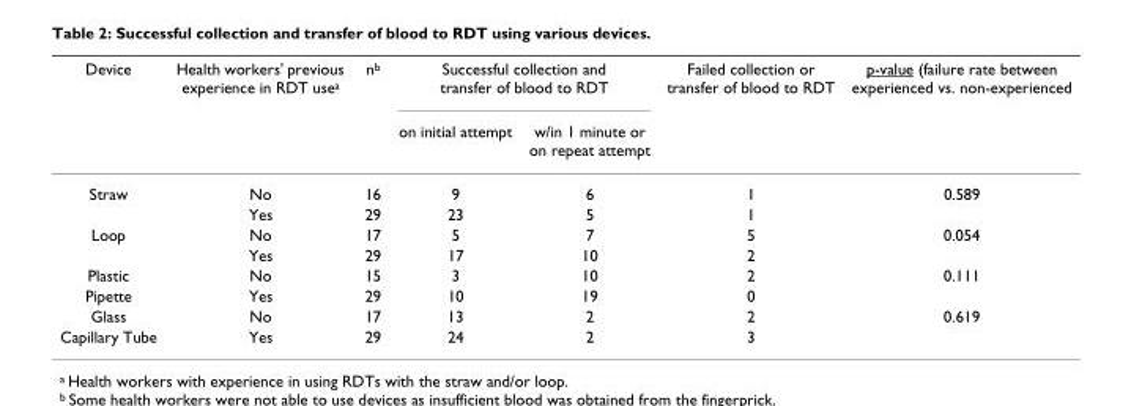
<table><thead><tr><td rowspan="2">Device</td><td rowspan="2">Health workers&#x27; previous experience in RDT use<sup>a</sup></td><td rowspan="2">n<sup>b</sup></td><td colspan="2">Successful collection and transfer of blood to RDT</td><td rowspan="2">Failed collection or transfer of blood to RDT</td><td rowspan="2">p-value (failure rate between experienced vs. non-experienced</td></tr><tr><td>on initial attempt</td><td>w/in 1 minute or on repeat attempt</td></tr></thead><tbody><tr><td rowspan="2">Straw</td><td>No</td><td>16</td><td>9</td><td>6</td><td>1</td><td>0.589</td></tr><tr><td>Yes</td><td>29</td><td>23</td><td>5</td><td>1</td><td></td></tr><tr><td rowspan="2">Loop</td><td>No</td><td>17</td><td>5</td><td>7</td><td>5</td><td>0.054</td></tr><tr><td>Yes</td><td>29</td><td>17</td><td>10</td><td>2</td><td></td></tr><tr><td>Plastic</td><td>No</td><td>15</td><td>3</td><td>10</td><td>2</td><td>0.111</td></tr><tr><td>Pipette</td><td>Yes</td><td>29</td><td>10</td><td>19</td><td>0</td><td></td></tr><tr><td>Glass</td><td>No</td><td>17</td><td>13</td><td>2</td><td>2</td><td>0.619</td></tr><tr><td>Capillary Tube</td><td>Yes</td><td>29</td><td>24</td><td>2</td><td>3</td><td></td></tr></tbody></table>